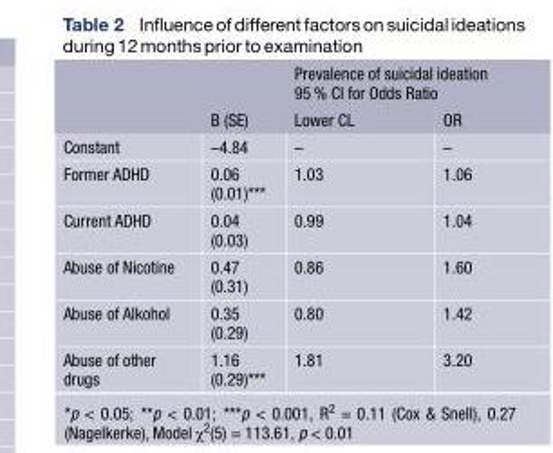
<table><thead><tr><td rowspan="2"></td><td rowspan="2">B (SE)</td><td colspan="2">Prevalence of suicidal ideation 95 % CI for Odds Ratio</td></tr><tr><td>Lower CL</td><td>OR</td></tr></thead><tbody><tr><td>Constant</td><td>–4.84</td><td>–</td><td>–</td></tr><tr><td>Former ADHD</td><td>0.06 (0.01)***</td><td>1.03</td><td>1.06</td></tr><tr><td>Current ADHD</td><td>0.04 (0.03)</td><td>0.99</td><td>1.04</td></tr><tr><td>Abuse of Nicotine</td><td>0.47 (0.31)</td><td>0.86</td><td>1.60</td></tr><tr><td>Abuse of Alkohol</td><td>0.35 (0.29)</td><td>0.80</td><td>1.42</td></tr><tr><td>Abuse of other drugs</td><td>1.16 (0.29)***</td><td>1.81</td><td>3.20</td></tr></tbody></table>